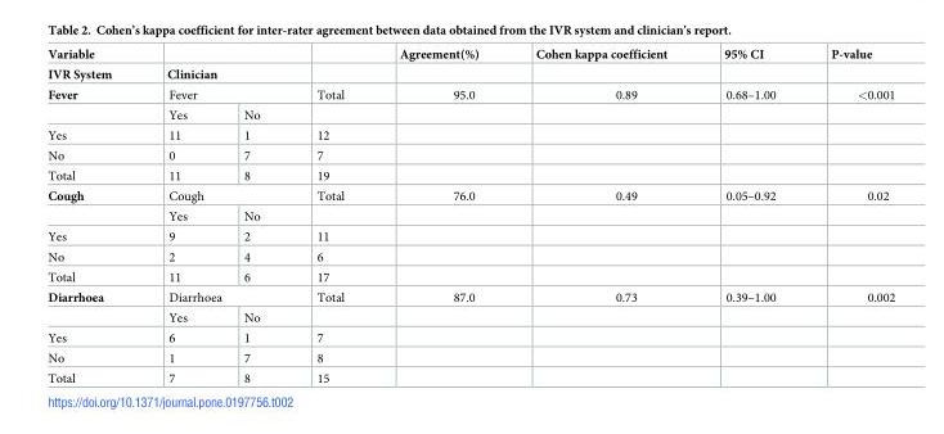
<table><thead><tr><td rowspan="2">Variable IVR System</td><td></td><td></td><td rowspan="2"></td><td rowspan="2">Agreement(%)</td><td rowspan="2">Cohen kappa coefficient</td><td rowspan="2">95% CI</td><td rowspan="2">P-value</td></tr><tr><td colspan="2">Clinician</td></tr></thead><tbody><tr><td rowspan="2">Fever</td><td colspan="2">Fever</td><td>Total</td><td>95.0</td><td>0.89</td><td>0.68–1.00</td><td>&lt;0.001</td></tr><tr><td>Yes</td><td>No</td><td></td><td></td><td></td><td></td><td></td></tr><tr><td>Yes</td><td>11</td><td>1</td><td>12</td><td></td><td></td><td></td><td></td></tr><tr><td>No</td><td>0</td><td>7</td><td>7</td><td></td><td></td><td></td><td></td></tr><tr><td>Total</td><td>11</td><td>8</td><td>19</td><td></td><td></td><td></td><td></td></tr><tr><td rowspan="2">Cough</td><td colspan="2">Cough</td><td>Total</td><td>76.0</td><td>0.49</td><td>0.05–0.92</td><td>0.02</td></tr><tr><td>Yes</td><td>No</td><td></td><td></td><td></td><td></td><td></td></tr><tr><td>Yes</td><td>9</td><td>2</td><td>11</td><td></td><td></td><td></td><td></td></tr><tr><td>No</td><td>2</td><td>4</td><td>6</td><td></td><td></td><td></td><td></td></tr><tr><td>Total</td><td>11</td><td>6</td><td>17</td><td></td><td></td><td></td><td></td></tr><tr><td rowspan="2">Diarrhoea</td><td colspan="2">Diarrhoea</td><td>Total</td><td>87.0</td><td>0.73</td><td>0.39–1.00</td><td>0.002</td></tr><tr><td>Yes</td><td>No</td><td></td><td></td><td></td><td></td><td></td></tr><tr><td>Yes</td><td>6</td><td>1</td><td>7</td><td></td><td></td><td></td><td></td></tr><tr><td>No</td><td>1</td><td>7</td><td>8</td><td></td><td></td><td></td><td></td></tr><tr><td>Total</td><td>7</td><td>8</td><td>15</td><td></td><td></td><td></td><td></td></tr></tbody></table>